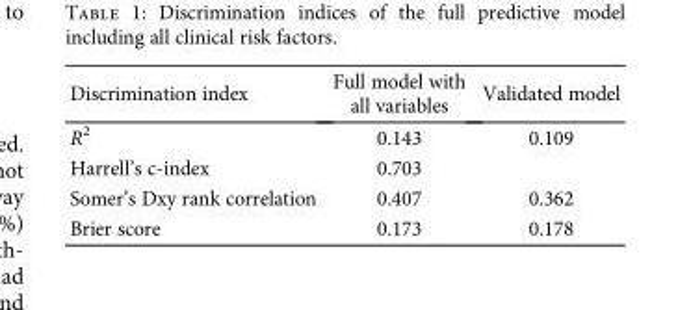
<table><thead><tr><td>Discrimination index</td><td>Full model with all variables</td><td>Validated model</td></tr></thead><tbody><tr><td>R<sup>2</sup></td><td>0.143</td><td>0.109</td></tr><tr><td>Harrell’s c-index</td><td>0.703</td><td></td></tr><tr><td>Somer’s Dxy rank correlation</td><td>0.407</td><td>0.362</td></tr><tr><td>Brier score</td><td>0.173</td><td>0.178</td></tr></tbody></table>